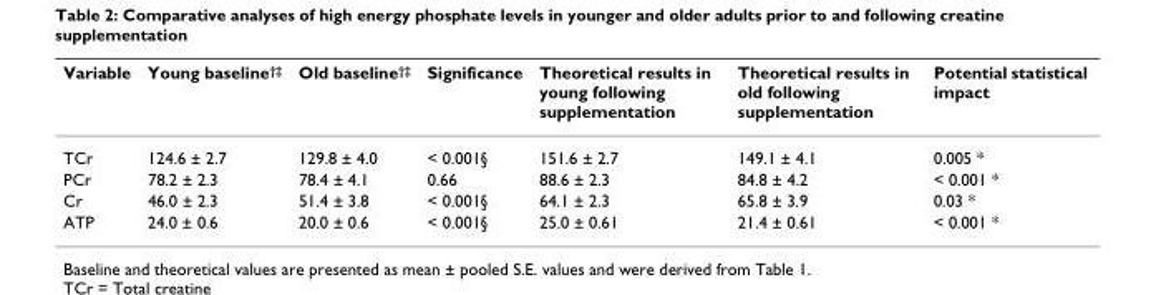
<table><thead><tr><td>Variable</td><td>Young baseline<sup>†‡</sup></td><td>Old baseline<sup>†‡</sup></td><td>Significance</td><td>Theoretical results in young following supplementation</td><td>Theoretical results in old following supplementation</td><td>Potential statistical impact</td></tr></thead><tbody><tr><td>TCr</td><td>124.6 ± 2.7</td><td>129.8 ± 4.0</td><td>&lt; 0.001§</td><td>151.6 ± 2.7</td><td>149.1 ± 4.1</td><td>0.005 *</td></tr><tr><td>PCr</td><td>78.2 ± 2.3</td><td>78.4 ± 4.1</td><td>0.66</td><td>88.6 ± 2.3</td><td>84.8 ± 4.2</td><td>&lt; 0.001 *</td></tr><tr><td>Cr</td><td>46.0 ± 2.3</td><td>51.4 ± 3.8</td><td>&lt; 0.001§</td><td>64.1 ± 2.3</td><td>65.8 ± 3.9</td><td>0.03 *</td></tr><tr><td>ATP</td><td>24.0 ± 0.6</td><td>20.0 ± 0.6</td><td>&lt; 0.001§</td><td>25.0 ± 0.61</td><td>21.4 ± 0.61</td><td>&lt; 0.001 *</td></tr></tbody></table>